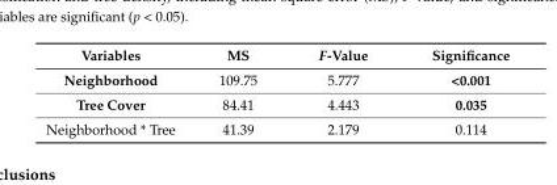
<table><thead><tr><td>Variables</td><td>MS</td><td>F-Value</td><td>Significance</td></tr></thead><tbody><tr><td>Neighborhood</td><td>109.75</td><td>5.777</td><td>&lt;0.001</td></tr><tr><td>Tree Cover</td><td>84.41</td><td>4.443</td><td>0.035</td></tr><tr><td>Neighborhood * Tree</td><td>41.39</td><td>2.179</td><td>0.114</td></tr></tbody></table>